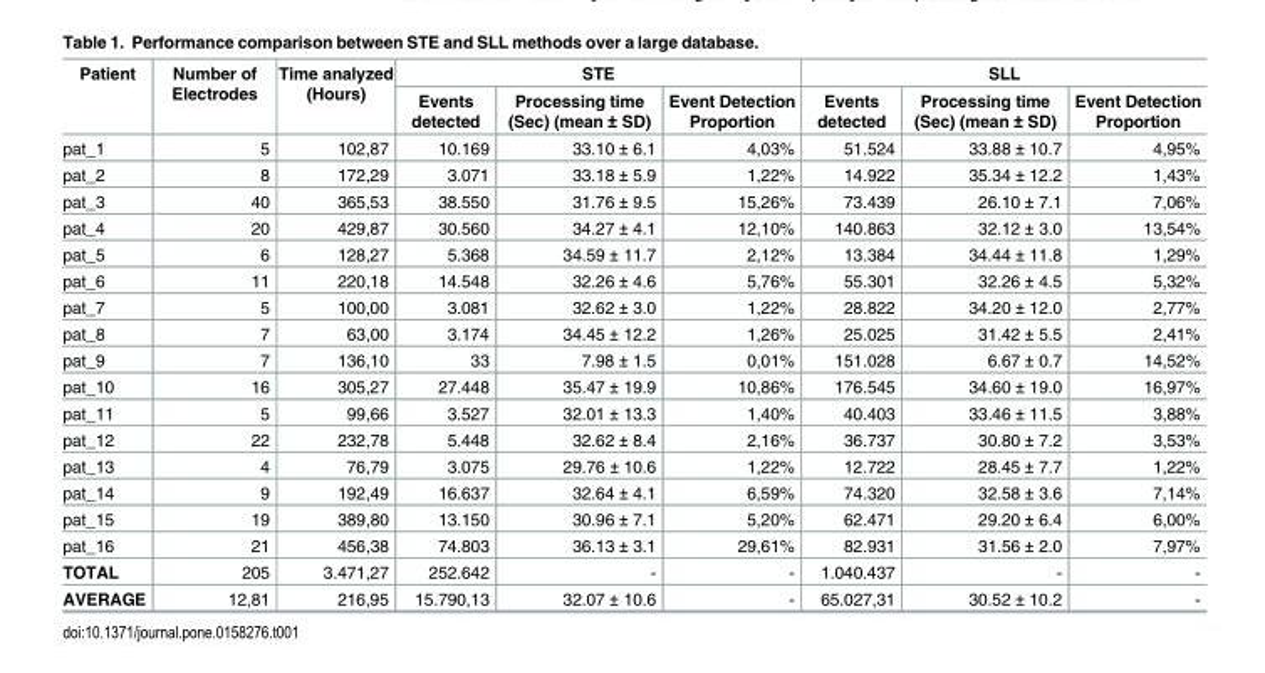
<table><thead><tr><td rowspan="2">Patient</td><td rowspan="2">Number of Electrodes</td><td rowspan="2">Time analyzed (Hours)</td><td colspan="3">STE</td><td colspan="3">SLL</td></tr><tr><td>Events detected</td><td>Processing time (Sec) (mean ± SD)</td><td>Event Detection Proportion</td><td>Events detected</td><td>Processing time (Sec) (mean ± SD)</td><td>Event Detection Proportion</td></tr></thead><tbody><tr><td>pat_1</td><td>5</td><td>102,87</td><td>10.169</td><td>33.10 ± 6.1</td><td>4,03%</td><td>51.524</td><td>33.88 ± 10.7</td><td>4,95%</td></tr><tr><td>pat_2</td><td>8</td><td>172,29</td><td>3.071</td><td>33.18 ± 5.9</td><td>1,22%</td><td>14.922</td><td>35.34 ± 12.2</td><td>1,43%</td></tr><tr><td>pat_3</td><td>40</td><td>365,53</td><td>38.550</td><td>31.76 ± 9.5</td><td>15,26%</td><td>73.439</td><td>26.10 ± 7.1</td><td>7,06%</td></tr><tr><td>pat_4</td><td>20</td><td>429,87</td><td>30.560</td><td>34.27 ± 4.1</td><td>12,10%</td><td>140.863</td><td>32.12 ± 3.0</td><td>13,54%</td></tr><tr><td>pat_5</td><td>6</td><td>128,27</td><td>5.368</td><td>34.59 ± 11.7</td><td>2,12%</td><td>13.384</td><td>34.44 ± 11.8</td><td>1,29%</td></tr><tr><td>pat_6</td><td>11</td><td>220,18</td><td>14.548</td><td>32.26 ± 4.6</td><td>5,76%</td><td>55.301</td><td>32.26 ± 4.5</td><td>5,32%</td></tr><tr><td>pat_7</td><td>5</td><td>100,00</td><td>3.081</td><td>32.62 ± 3.0</td><td>1,22%</td><td>28.822</td><td>34.20 ± 12.0</td><td>2,77%</td></tr><tr><td>pat_8</td><td>7</td><td>63,00</td><td>3.174</td><td>34.45 ± 12.2</td><td>1,26%</td><td>25.025</td><td>31.42 ± 5.5</td><td>2,41%</td></tr><tr><td>pat_9</td><td>7</td><td>136,10</td><td>33</td><td>7.98 ± 1.5</td><td>0,01%</td><td>151.028</td><td>6.67 ± 0.7</td><td>14,52%</td></tr><tr><td>pat_10</td><td>16</td><td>305,27</td><td>27.448</td><td>35.47 ± 19.9</td><td>10,86%</td><td>176.545</td><td>34.60 ± 19.0</td><td>16,97%</td></tr><tr><td>pat_11</td><td>5</td><td>99,66</td><td>3.527</td><td>32.01 ± 13.3</td><td>1,40%</td><td>40.403</td><td>33.46 ± 11.5</td><td>3,88%</td></tr><tr><td>pat_12</td><td>22</td><td>232,78</td><td>5.448</td><td>32.62 ± 8.4</td><td>2,16%</td><td>36.737</td><td>30.80 ± 7.2</td><td>3,53%</td></tr><tr><td>pat_13</td><td>4</td><td>76,79</td><td>3.075</td><td>29.76 ± 10.6</td><td>1,22%</td><td>12.722</td><td>28.45 ± 7.7</td><td>1,22%</td></tr><tr><td>pat_14</td><td>9</td><td>192,49</td><td>16.637</td><td>32.64 ± 4.1</td><td>6,59%</td><td>74.320</td><td>32.58 ± 3.6</td><td>7,14%</td></tr><tr><td>pat_15</td><td>19</td><td>389,80</td><td>13.150</td><td>30.96 ± 7.1</td><td>5,20%</td><td>62.471</td><td>29.20 ± 6.4</td><td>6,00%</td></tr><tr><td>pat_16</td><td>21</td><td>456,38</td><td>74.803</td><td>36.13 ± 3.1</td><td>29,61%</td><td>82.931</td><td>31.56 ± 2.0</td><td>7,97%</td></tr><tr><td>TOTAL</td><td>205</td><td>3.471,27</td><td>252.642</td><td>-</td><td>-</td><td>1.040.437</td><td>-</td><td>-</td></tr><tr><td>AVERAGE</td><td>12,81</td><td>216,95</td><td>15.790,13</td><td>32.07 ± 10.6</td><td>-</td><td>65.027,31</td><td>30.52 ± 10.2</td><td>-</td></tr></tbody></table>